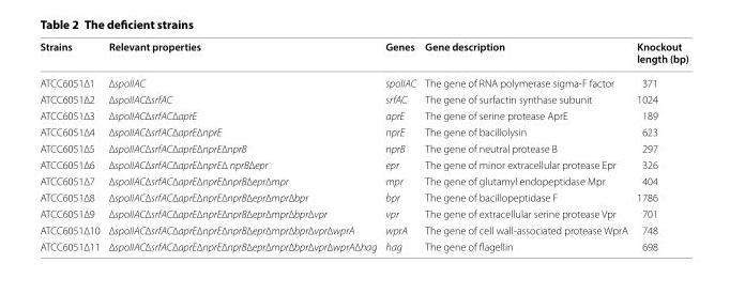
<table><thead><tr><td>Strains</td><td>Relevant properties</td><td>Genes</td><td>Gene description</td><td>Knockout length (bp)</td></tr></thead><tbody><tr><td>ATCC6051∆1</td><td>∆spoIIAC</td><td>spoIIAC</td><td>The gene of RNA polymerase sigma-F factor</td><td>371</td></tr><tr><td>ATCC6051∆2</td><td>∆spoIIAC∆srfAC</td><td>srfAC</td><td>The gene of surfactin synthase subunit</td><td>1024</td></tr><tr><td>ATCC6051∆3</td><td>∆spoIIAC∆srfAC∆aprE</td><td>aprE</td><td>The gene of serine protease AprE</td><td>189</td></tr><tr><td>ATCC6051∆4</td><td>∆spoIIAC∆srfAC∆aprE∆nprE</td><td>nprE</td><td>The gene of bacillolysin</td><td>623</td></tr><tr><td>ATCC6051∆5</td><td>∆spoIIAC∆srfAC∆aprE∆nprE∆nprB</td><td>nprB</td><td>The gene of neutral protease B</td><td>297</td></tr><tr><td>ATCC6051∆6</td><td>∆spoIIAC∆srfAC∆aprE∆nprE∆ nprB∆epr</td><td>epr</td><td>The gene of minor extracellular protease Epr</td><td>326</td></tr><tr><td>ATCC6051∆7</td><td>∆spoIIAC∆srfAC∆aprE∆nprE∆nprB∆epr∆mpr</td><td>mpr</td><td>The gene of glutamyl endopeptidase Mpr</td><td>404</td></tr><tr><td>ATCC6051∆8</td><td>∆spoIIAC∆srfAC∆aprE∆nprE∆nprB∆epr∆mpr∆bpr</td><td>bpr</td><td>The gene of bacillopeptidase F</td><td>1786</td></tr><tr><td>ATCC6051∆9</td><td>∆spoIIAC∆srfAC∆aprE∆nprE∆nprB∆epr∆mpr∆bpr∆vpr</td><td>vpr</td><td>The gene of extracellular serine protease Vpr</td><td>701</td></tr><tr><td>ATCC6051∆10</td><td>∆spoIIAC∆srfAC∆aprE∆nprE∆nprB∆epr∆mpr∆bpr∆vpr∆wprA</td><td>wprA</td><td>The gene of cell wall-associated protease WprA</td><td>748</td></tr><tr><td>ATCC6051∆11</td><td>∆spoIIAC∆srfAC∆aprE∆nprE∆nprB∆epr∆mpr∆bpr∆vpr∆wprA∆hag</td><td>hag</td><td>The gene of flagellin</td><td>698</td></tr></tbody></table>